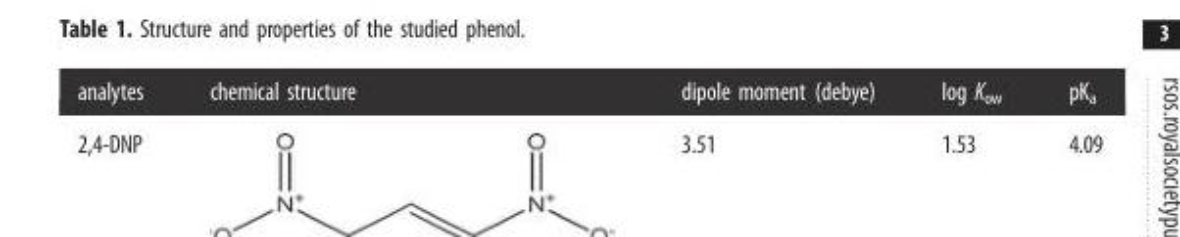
<table><thead><tr><td>analytes</td><td>chemical structure</td><td>dipole moment (debye)</td><td>log K<sub>ow</sub></td><td>pK<sub>a</sub></td></tr></thead><tbody><tr><td>2,4-DNP</td><td></td><td>3.51</td><td>1.53</td><td>4.09</td></tr></tbody></table>